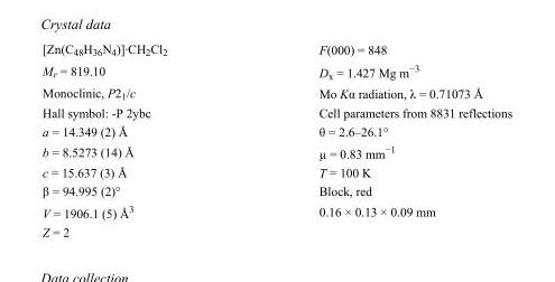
<table><tbody><tr><td>[Zn(C<sub>48</sub>H<sub>36</sub>N<sub>4</sub>)]·CH<sub>2</sub>Cl<sub>2</sub></td><td>F(000) = 848</td></tr><tr><td>M<sub>r</sub> = 819.10</td><td>D<sub>x</sub> = 1.427 Mg m<sup>−3</sup></td></tr><tr><td>Monoclinic, P2<sub>1</sub>/c</td><td>Mo Kα radiation, λ = 0.71073 Å</td></tr><tr><td>Hall symbol: -P 2ybc</td><td>Cell parameters from 8831 reflections</td></tr><tr><td>a = 14.349 (2) Å</td><td>θ = 2.6–26.1°</td></tr><tr><td>b = 8.5273 (14) Å</td><td>µ = 0.83 mm<sup>−1</sup></td></tr><tr><td>c = 15.637 (3) Å</td><td>T = 100 K</td></tr><tr><td>β = 94.995 (2)°</td><td>Block, red</td></tr><tr><td>V = 1906.1 (5) Å<sup>3</sup></td><td>0.16 × 0.13 × 0.09 mm</td></tr><tr><td>Z = 2</td><td></td></tr></tbody></table>